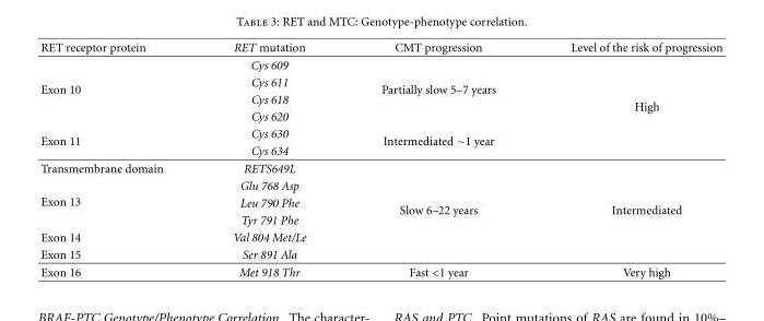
<table><thead><tr><td>RET receptor protein</td><td>RET mutation</td><td>CMT progression</td><td>Level of the risk of progression</td></tr></thead><tbody><tr><td rowspan="4">Exon 10</td><td>Cys 609</td><td rowspan="4">Partially slow 5–7 years</td><td rowspan="6">High</td></tr><tr><td>Cys 611</td></tr><tr><td>Cys 618</td></tr><tr><td>Cys 620</td></tr><tr><td rowspan="2">Exon 11</td><td>Cys 630</td><td rowspan="2">Intermediated ∼1 year</td></tr><tr><td>Cys 634</td></tr><tr><td>Transmembrane domain</td><td>RETS649L</td><td rowspan="6">Slow 6–22 years</td><td rowspan="6">Intermediated</td></tr><tr><td rowspan="3">Exon 13</td><td>Glu 768 Asp</td></tr><tr><td>Leu 790 Phe</td></tr><tr><td>Tyr 791 Phe</td></tr><tr><td>Exon 14</td><td>Val 804 Met/Le</td></tr><tr><td>Exon 15</td><td>Ser 891 Ala</td></tr><tr><td>Exon 16</td><td>Met 918 Thr</td><td>Fast &lt;1 year</td><td>Very high</td></tr></tbody></table>